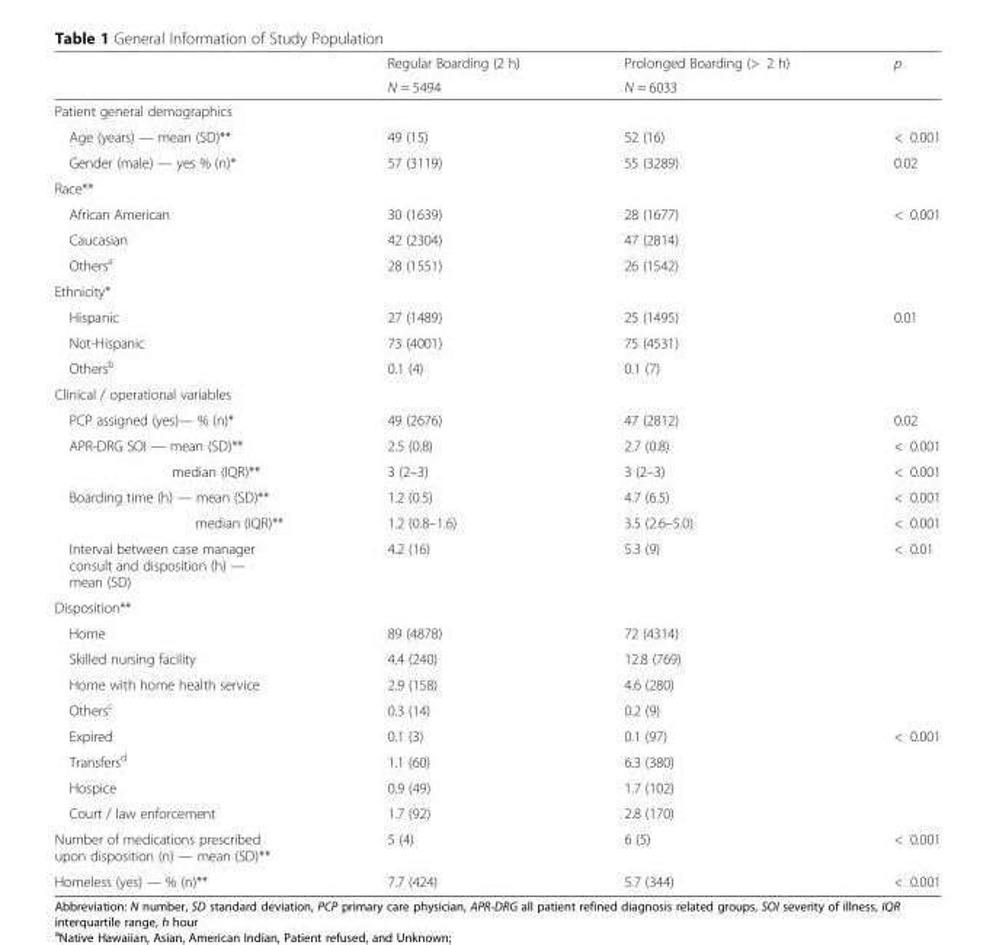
<table><thead><tr><td rowspan="2"></td><td rowspan="2">Regular Boarding (2 h) N = 5494</td><td rowspan="2">Prolonged Boarding (&gt; 2 h) N = 6033</td><td rowspan="2">p</td></tr><tr></tr></thead><tbody><tr><td colspan="4">Patient general demographics</td></tr><tr><td>Age (years) — mean (SD)**</td><td>49 (15)</td><td>52 (16)</td><td>&lt; 0.001</td></tr><tr><td>Gender (male) — yes % (n)*</td><td>57 (3119)</td><td>55 (3289)</td><td>0.02</td></tr><tr><td colspan="4">Race**</td></tr><tr><td>African American</td><td>30 (1639)</td><td>28 (1677)</td><td>&lt; 0.001</td></tr><tr><td>Caucasian</td><td>42 (2304)</td><td>47 (2814)</td><td></td></tr><tr><td>Others<sup>a</sup></td><td>28 (1551)</td><td>26 (1542)</td><td></td></tr><tr><td colspan="4">Ethnicity*</td></tr><tr><td>Hispanic</td><td>27 (1489)</td><td>25 (1495)</td><td>0.01</td></tr><tr><td>Not-Hispanic</td><td>73 (4001)</td><td>75 (4531)</td><td></td></tr><tr><td>Others<sup>b</sup></td><td>0.1 (4)</td><td>0.1 (7)</td><td></td></tr><tr><td colspan="4">Clinical / operational variables</td></tr><tr><td>PCP assigned (yes)— % (n)*</td><td>49 (2676)</td><td>47 (2812)</td><td>0.02</td></tr><tr><td>APR-DRG SOI — mean (SD)**</td><td>2.5 (0.8)</td><td>2.7 (0.8)</td><td>&lt; 0.001</td></tr><tr><td>median (IQR)**</td><td>3 (2–3)</td><td>3 (2–3)</td><td>&lt; 0.001</td></tr><tr><td>Boarding time (h) — mean (SD)**</td><td>1.2 (0.5)</td><td>4.7 (6.5)</td><td>&lt; 0.001</td></tr><tr><td>median (IQR)**</td><td>1.2 (0.8–1.6)</td><td>3.5 (2.6–5.0)</td><td>&lt; 0.001</td></tr><tr><td>Interval between case manager consult and disposition (h) — mean (SD)</td><td>4.2 (16)</td><td>5.3 (9)</td><td>&lt; 0.01</td></tr><tr><td colspan="4">Disposition**</td></tr><tr><td>Home</td><td>89 (4878)</td><td>72 (4314)</td><td></td></tr><tr><td>Skilled nursing facility</td><td>4.4 (240)</td><td>12.8 (769)</td><td></td></tr><tr><td>Home with home health service</td><td>2.9 (158)</td><td>4.6 (280)</td><td></td></tr><tr><td>Others<sup>c</sup></td><td>0.3 (14)</td><td>0.2 (9)</td><td></td></tr><tr><td>Expired</td><td>0.1 (3)</td><td>0.1 (97)</td><td>&lt; 0.001</td></tr><tr><td>Transfers<sup>d</sup></td><td>1.1 (60)</td><td>6.3 (380)</td><td></td></tr><tr><td>Hospice</td><td>0.9 (49)</td><td>1.7 (102)</td><td></td></tr><tr><td>Court / law enforcement</td><td>1.7 (92)</td><td>2.8 (170)</td><td></td></tr><tr><td>Number of medications prescribed upon disposition (n) — mean (SD)**</td><td>5 (4)</td><td>6 (5)</td><td>&lt; 0.001</td></tr><tr><td>Homeless (yes) — % (n)**</td><td>7.7 (424)</td><td>5.7 (344)</td><td>&lt; 0.001</td></tr></tbody></table>